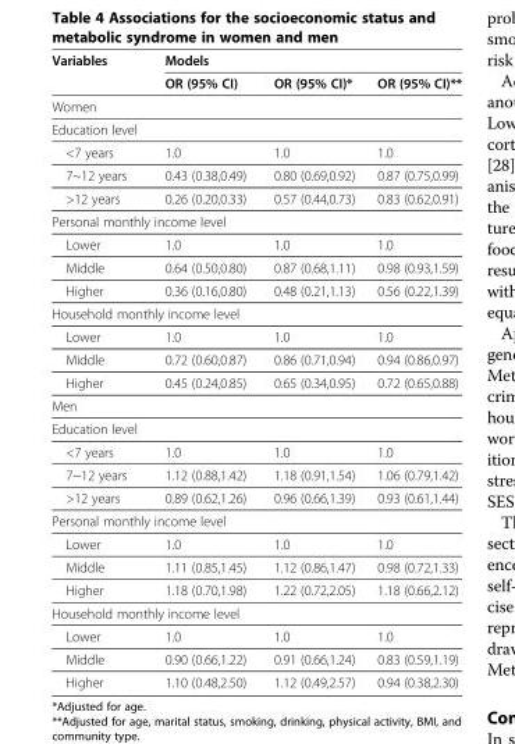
<table><thead><tr><td rowspan="2">Variables</td><td colspan="3">Models</td></tr><tr><td>OR (95% CI)</td><td>OR (95% CI)*</td><td>OR (95% CI)**</td></tr></thead><tbody><tr><td colspan="4">Women</td></tr><tr><td colspan="4">Education level</td></tr><tr><td>&lt;7 years</td><td>1.0</td><td>1.0</td><td>1.0</td></tr><tr><td>7~12 years</td><td>0.43 (0.38,0.49)</td><td>0.80 (0.69,0.92)</td><td>0.87 (0.75,0.99)</td></tr><tr><td>&gt;12 years</td><td>0.26 (0.20,0.33)</td><td>0.57 (0.44,0.73)</td><td>0.83 (0.62,0.91)</td></tr><tr><td colspan="4">Personal monthly income level</td></tr><tr><td>Lower</td><td>1.0</td><td>1.0</td><td>1.0</td></tr><tr><td>Middle</td><td>0.64 (0.50,0.80)</td><td>0.87 (0.68,1.11)</td><td>0.98 (0.93,1.59)</td></tr><tr><td>Higher</td><td>0.36 (0.16,0.80)</td><td>0.48 (0.21,1.13)</td><td>0.56 (0.22,1.39)</td></tr><tr><td colspan="4">Household monthly income level</td></tr><tr><td>Lower</td><td>1.0</td><td>1.0</td><td>1.0</td></tr><tr><td>Middle</td><td>0.72 (0.60,0.87)</td><td>0.86 (0.71,0.94)</td><td>0.94 (0.86,0.97)</td></tr><tr><td>Higher</td><td>0.45 (0.24,0.85)</td><td>0.65 (0.34,0.95)</td><td>0.72 (0.65,0.88)</td></tr><tr><td colspan="4">Men</td></tr><tr><td colspan="4">Education level</td></tr><tr><td>&lt;7 years</td><td>1.0</td><td>1.0</td><td>1.0</td></tr><tr><td>7~12 years</td><td>1.12 (0.88,1.42)</td><td>1.18 (0.91,1.54)</td><td>1.06 (0.79,1.42)</td></tr><tr><td>&gt;12 years</td><td>0.89 (0.62,1.26)</td><td>0.96 (0.66,1.39)</td><td>0.93 (0.61,1.44)</td></tr><tr><td colspan="4">Personal monthly income level</td></tr><tr><td>Lower</td><td>1.0</td><td>1.0</td><td>1.0</td></tr><tr><td>Middle</td><td>1.11 (0.85,1.45)</td><td>1.12 (0.86,1.47)</td><td>0.98 (0.72,1.33)</td></tr><tr><td>Higher</td><td>1.18 (0.70,1.98)</td><td>1.22 (0.72,2.05)</td><td>1.18 (0.66,2.12)</td></tr><tr><td colspan="4">Household monthly income level</td></tr><tr><td>Lower</td><td>1.0</td><td>1.0</td><td>1.0</td></tr><tr><td>Middle</td><td>0.90 (0.66,1.22)</td><td>0.91 (0.66,1.24)</td><td>0.83 (0.59,1.19)</td></tr><tr><td>Higher</td><td>1.10 (0.48,2.50)</td><td>1.12 (0.49,2.57)</td><td>0.94 (0.38,2.30)</td></tr></tbody></table>